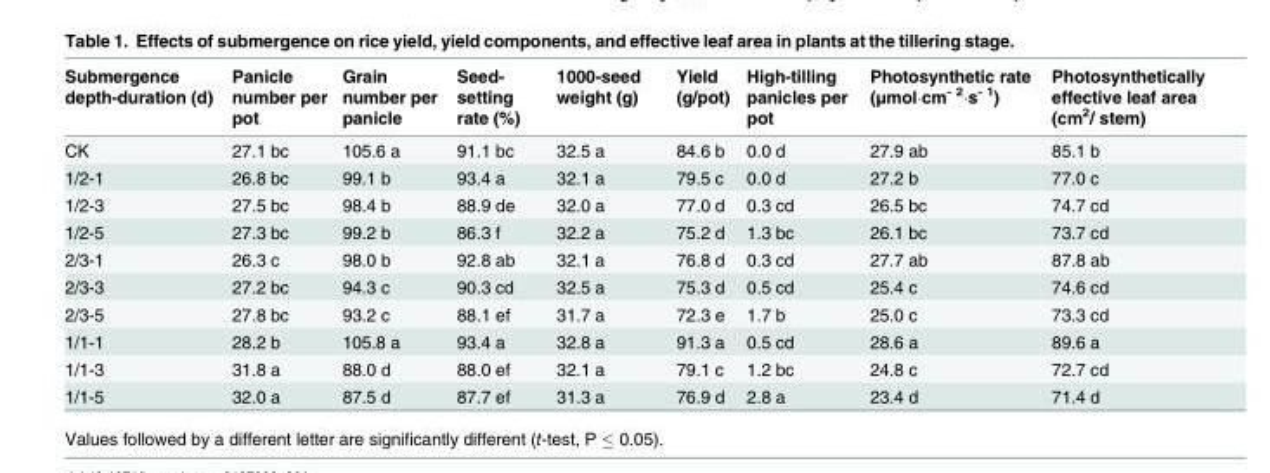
<table><thead><tr><td>Submergence depth-duration (d)</td><td>Panicle number per pot</td><td>Grain number per panicle</td><td>Seed- setting rate (%)</td><td>1000-seed weight (g)</td><td>Yield (g/pot)</td><td>High-tilling panicles per pot</td><td>Photosynthetic rate (μmol·cm<sup>- 2</sup>·s<sup>- 1</sup>)</td><td>Photosynthetically effective leaf area (cm<sup>2</sup>/ stem)</td></tr></thead><tbody><tr><td>CK</td><td>27.1 bc</td><td>105.6 a</td><td>91.1 bc</td><td>32.5 a</td><td>84.6 b</td><td>0.0 d</td><td>27.9 ab</td><td>85.1 b</td></tr><tr><td>1/2-1</td><td>26.8 bc</td><td>99.1 b</td><td>93.4 a</td><td>32.1 a</td><td>79.5 c</td><td>0.0 d</td><td>27.2 b</td><td>77.0 c</td></tr><tr><td>1/2-3</td><td>27.5 bc</td><td>98.4 b</td><td>88.9 de</td><td>32.0 a</td><td>77.0 d</td><td>0.3 cd</td><td>26.5 bc</td><td>74.7 cd</td></tr><tr><td>1/2-5</td><td>27.3 bc</td><td>99.2 b</td><td>86.3 f</td><td>32.2 a</td><td>75.2 d</td><td>1.3 bc</td><td>26.1 bc</td><td>73.7 cd</td></tr><tr><td>2/3-1</td><td>26.3 c</td><td>98.0 b</td><td>92.8 ab</td><td>32.1 a</td><td>76.8 d</td><td>0.3 cd</td><td>27.7 ab</td><td>87.8 ab</td></tr><tr><td>2/3-3</td><td>27.2 bc</td><td>94.3 c</td><td>90.3 cd</td><td>32.5 a</td><td>75.3 d</td><td>0.5 cd</td><td>25.4 c</td><td>74.6 cd</td></tr><tr><td>2/3-5</td><td>27.8 bc</td><td>93.2 c</td><td>88.1 ef</td><td>31.7 a</td><td>72.3 e</td><td>1.7 b</td><td>25.0 c</td><td>73.3 cd</td></tr><tr><td>1/1-1</td><td>28.2 b</td><td>105.8 a</td><td>93.4 a</td><td>32.8 a</td><td>91.3 a</td><td>0.5 cd</td><td>28.6 a</td><td>89.6 a</td></tr><tr><td>1/1-3</td><td>31.8 a</td><td>88.0 d</td><td>88.0 ef</td><td>32.1 a</td><td>79.1 c</td><td>1.2 bc</td><td>24.8 c</td><td>72.7 cd</td></tr><tr><td>1/1-5</td><td>32.0 a</td><td>87.5 d</td><td>87.7 ef</td><td>31.3 a</td><td>76.9 d</td><td>2.8 a</td><td>23.4 d</td><td>71.4 d</td></tr></tbody></table>